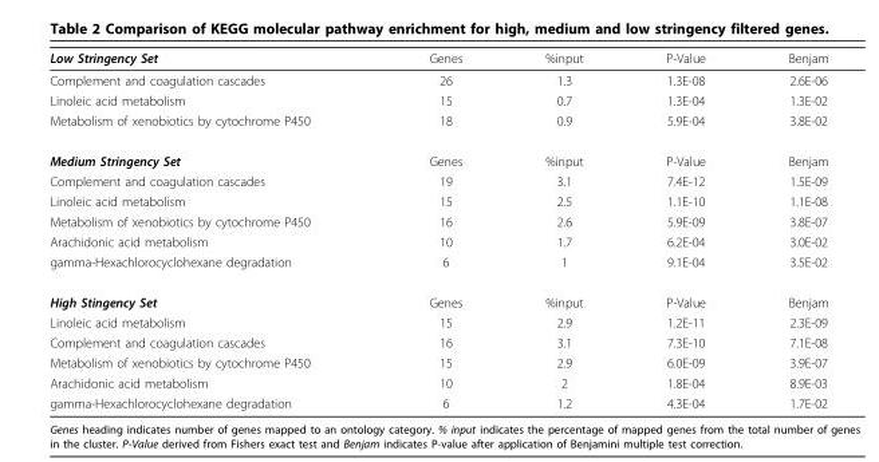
<table><thead><tr><td>Low Stringency Set</td><td>Genes</td><td>%input</td><td>P-Value</td><td>Benjam</td></tr></thead><tbody><tr><td>Complement and coagulation cascades</td><td>26</td><td>1.3</td><td>1.3E-08</td><td>2.6E-06</td></tr><tr><td>Linoleic acid metabolism</td><td>15</td><td>0.7</td><td>1.3E-04</td><td>1.3E-02</td></tr><tr><td>Metabolism of xenobiotics by cytochrome P450</td><td>18</td><td>0.9</td><td>5.9E-04</td><td>3.8E-02</td></tr><tr><td>Medium Stringency Set</td><td>Genes</td><td>%input</td><td>P-Value</td><td>Benjam</td></tr><tr><td>Complement and coagulation cascades</td><td>19</td><td>3.1</td><td>7.4E-12</td><td>1.5E-09</td></tr><tr><td>Linoleic acid metabolism</td><td>15</td><td>2.5</td><td>1.1E-10</td><td>1.1E-08</td></tr><tr><td>Metabolism of xenobiotics by cytochrome P450</td><td>16</td><td>2.6</td><td>5.9E-09</td><td>3.8E-07</td></tr><tr><td>Arachidonic acid metabolism</td><td>10</td><td>1.7</td><td>6.2E-04</td><td>3.0E-02</td></tr><tr><td>gamma-Hexachlorocyclohexane degradation</td><td>6</td><td>1</td><td>9.1E-04</td><td>3.5E-02</td></tr><tr><td>High Stingency Set</td><td>Genes</td><td>%input</td><td>P-Value</td><td>Benjam</td></tr><tr><td>Linoleic acid metabolism</td><td>15</td><td>2.9</td><td>1.2E-11</td><td>2.3E-09</td></tr><tr><td>Complement and coagulation cascades</td><td>16</td><td>3.1</td><td>7.3E-10</td><td>7.1E-08</td></tr><tr><td>Metabolism of xenobiotics by cytochrome P450</td><td>15</td><td>2.9</td><td>6.0E-09</td><td>3.9E-07</td></tr><tr><td>Arachidonic acid metabolism</td><td>10</td><td>2</td><td>1.8E-04</td><td>8.9E-03</td></tr><tr><td>gamma-Hexachlorocyclohexane degradation</td><td>6</td><td>1.2</td><td>4.3E-04</td><td>1.7E-02</td></tr></tbody></table>